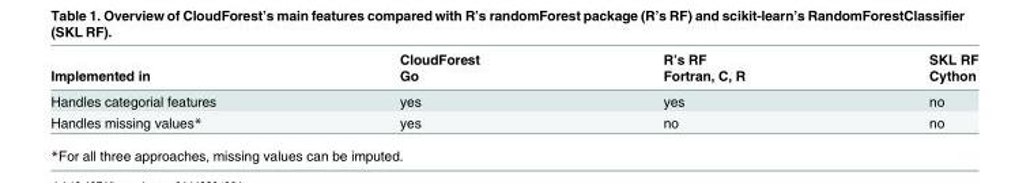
<table><thead><tr><td rowspan="2">Implemented in</td><td rowspan="2">CloudForest Go</td><td rowspan="2">R’s RF Fortran, C, R</td><td rowspan="2">SKL RF Cython</td></tr><tr></tr></thead><tbody><tr><td>Handles categorial features</td><td>yes</td><td>yes</td><td>no</td></tr><tr><td>Handles missing values*</td><td>yes</td><td>no</td><td>no</td></tr></tbody></table>